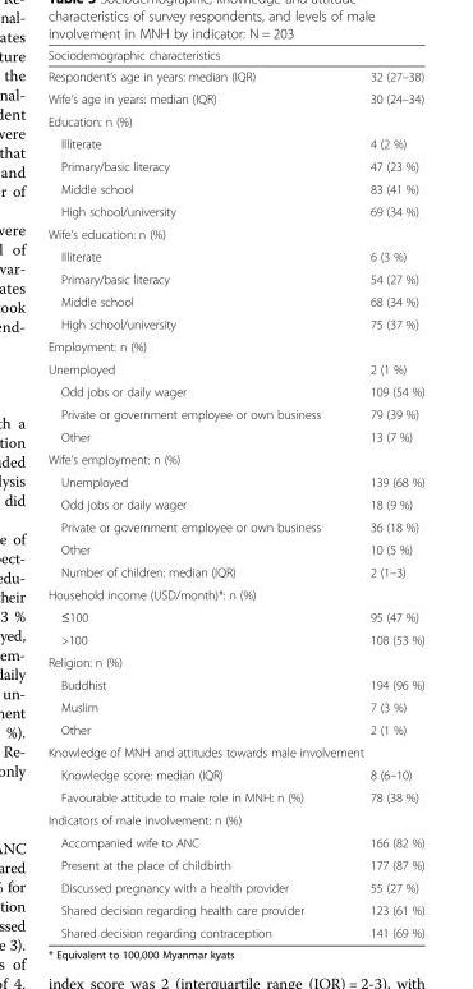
<table><thead><tr><td>Sociodemographic characteristics</td><td></td></tr></thead><tbody><tr><td>Respondent’s age in years: median (IQR)</td><td>32 (27–38)</td></tr><tr><td>Wife’s age in years: median (IQR)</td><td>30 (24–34)</td></tr><tr><td colspan="2">Education: n (%)</td></tr><tr><td>Illiterate</td><td>4 (2 %)</td></tr><tr><td>Primary/basic literacy</td><td>47 (23 %)</td></tr><tr><td>Middle school</td><td>83 (41 %)</td></tr><tr><td>High school/university</td><td>69 (34 %)</td></tr><tr><td colspan="2">Wife’s education: n (%)</td></tr><tr><td>Illiterate</td><td>6 (3 %)</td></tr><tr><td>Primary/basic literacy</td><td>54 (27 %)</td></tr><tr><td>Middle school</td><td>68 (34 %)</td></tr><tr><td>High school/university</td><td>75 (37 %)</td></tr><tr><td colspan="2">Employment: n (%)</td></tr><tr><td>Unemployed</td><td>2 (1 %)</td></tr><tr><td>Odd jobs or daily wager</td><td>109 (54 %)</td></tr><tr><td>Private or government employee or own business</td><td>79 (39 %)</td></tr><tr><td>Other</td><td>13 (7 %)</td></tr><tr><td colspan="2">Wife’s employment: n (%)</td></tr><tr><td>Unemployed</td><td>139 (68 %)</td></tr><tr><td>Odd jobs or daily wager</td><td>18 (9 %)</td></tr><tr><td>Private or government employee or own business</td><td>36 (18 %)</td></tr><tr><td>Other</td><td>10 (5 %)</td></tr><tr><td>Number of children: median (IQR)</td><td>2 (1–3)</td></tr><tr><td colspan="2">Household income (USD/month)*: n (%)</td></tr><tr><td>≤100</td><td>95 (47 %)</td></tr><tr><td>&gt;100</td><td>108 (53 %)</td></tr><tr><td colspan="2">Religion: n (%)</td></tr><tr><td>Buddhist</td><td>194 (96 %)</td></tr><tr><td>Muslim</td><td>7 (3 %)</td></tr><tr><td>Other</td><td>2 (1 %)</td></tr><tr><td colspan="2">Knowledge of MNH and attitudes towards male involvement</td></tr><tr><td>Knowledge score: median (IQR)</td><td>8 (6–10)</td></tr><tr><td>Favourable attitude to male role in MNH: n (%)</td><td>78 (38 %)</td></tr><tr><td colspan="2">Indicators of male involvement: n (%)</td></tr><tr><td>Accompanied wife to ANC</td><td>166 (82 %)</td></tr><tr><td>Present at the place of childbirth</td><td>177 (87 %)</td></tr><tr><td>Discussed pregnancy with a health provider</td><td>55 (27 %)</td></tr><tr><td>Shared decision regarding health care provider</td><td>123 (61 %)</td></tr><tr><td>Shared decision regarding contraception</td><td>141 (69 %)</td></tr></tbody></table>